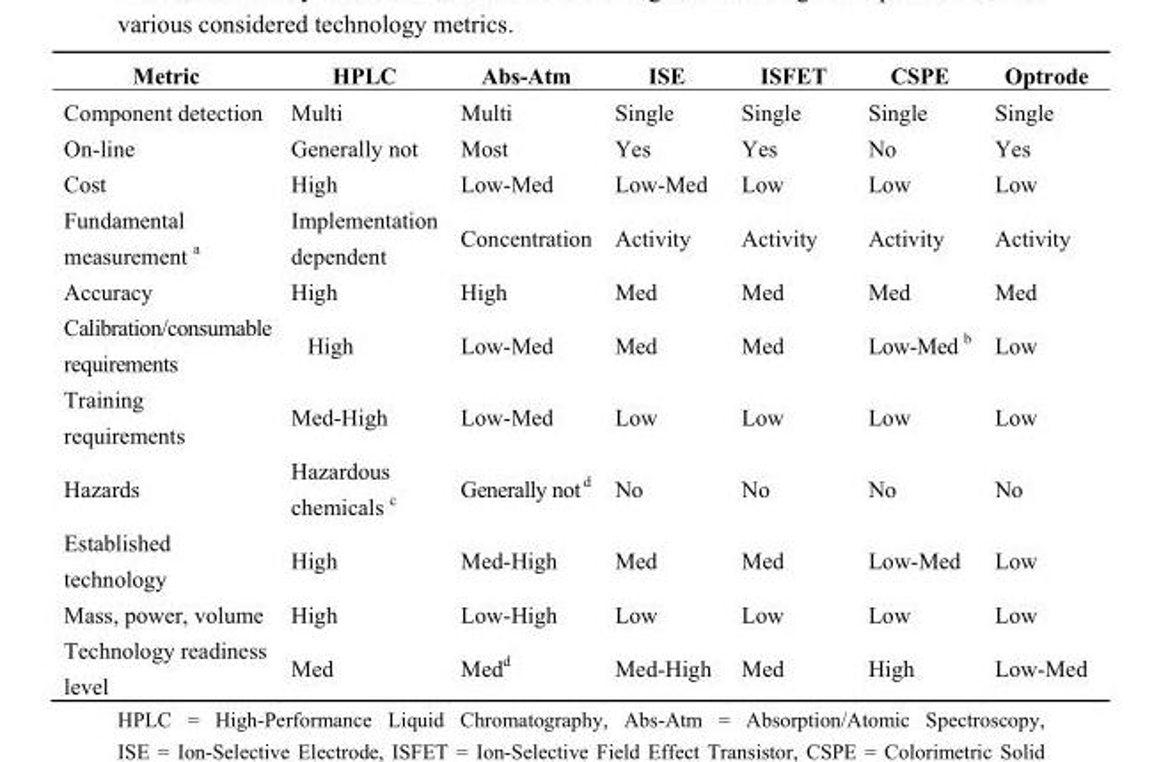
<table><thead><tr><td>Metric</td><td>HPLC</td><td>Abs-Atm</td><td>ISE</td><td>ISFET</td><td>CSPE</td><td>Optrode</td></tr></thead><tbody><tr><td>Component detection</td><td>Multi</td><td>Multi</td><td>Single</td><td>Single</td><td>Single</td><td>Single</td></tr><tr><td>On-line</td><td>Generally not</td><td>Most</td><td>Yes</td><td>Yes</td><td>No</td><td>Yes</td></tr><tr><td>Cost</td><td>High</td><td>Low-Med</td><td>Low-Med</td><td>Low</td><td>Low</td><td>Low</td></tr><tr><td>Fundamental measurement <sup>a</sup></td><td>Implementation dependent</td><td>Concentration</td><td>Activity</td><td>Activity</td><td>Activity</td><td>Activity</td></tr><tr><td>Accuracy</td><td>High</td><td>High</td><td>Med</td><td>Med</td><td>Med</td><td>Med</td></tr><tr><td>Calibration/consumable requirements</td><td>High</td><td>Low-Med</td><td>Med</td><td>Med</td><td>Low-Med <sup>b</sup></td><td>Low</td></tr><tr><td>Training requirements</td><td>Med-High</td><td>Low-Med</td><td>Low</td><td>Low</td><td>Low</td><td>Low</td></tr><tr><td>Hazards</td><td>Hazardous chemicals <sup>c</sup></td><td>Generally not <sup>d</sup></td><td>No</td><td>No</td><td>No</td><td>No</td></tr><tr><td>Established technology</td><td>High</td><td>Med-High</td><td>Med</td><td>Med</td><td>Low-Med</td><td>Low</td></tr><tr><td>Mass, power, volume</td><td>High</td><td>Low-High</td><td>Low</td><td>Low</td><td>Low</td><td>Low</td></tr><tr><td>Technology readiness level</td><td>Med</td><td>Med<sup>d</sup></td><td>Med-High</td><td>Med</td><td>High</td><td>Low-Med</td></tr></tbody></table>